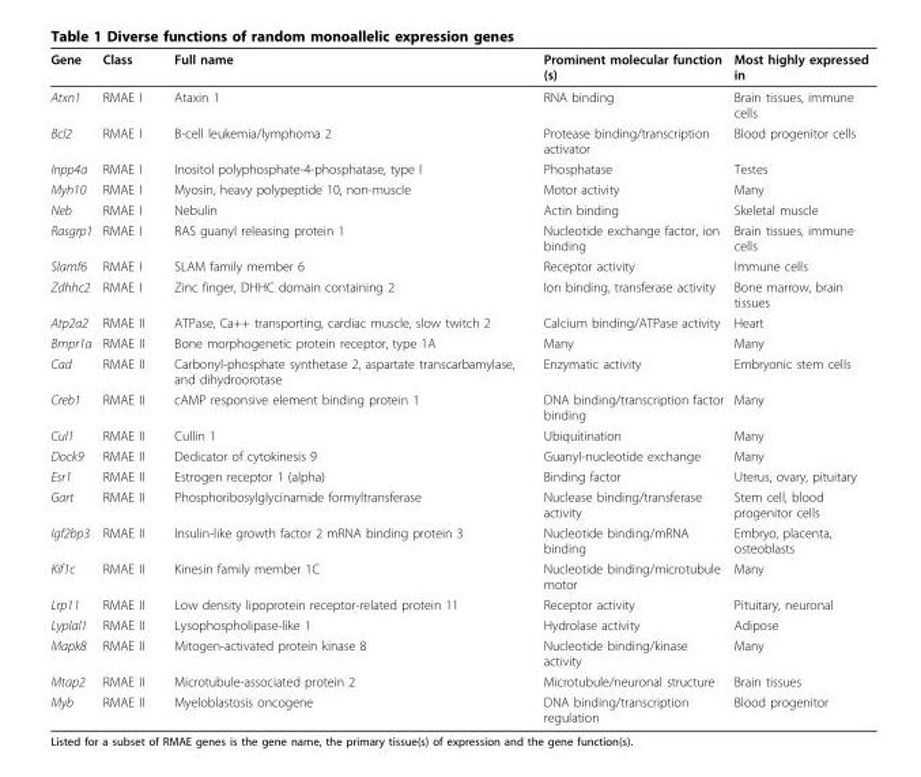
<table><thead><tr><td>Gene</td><td>Class</td><td>Full name</td><td>Prominent molecular function (s)</td><td>Most highly expressed in</td></tr></thead><tbody><tr><td>Atxn1</td><td>RMAE I</td><td>Ataxin 1</td><td>RNA binding</td><td>Brain tissues, immune cells</td></tr><tr><td>Bcl2</td><td>RMAE I</td><td>B-cell leukemia/lymphoma 2</td><td>Protease binding/transcription activator</td><td>Blood progenitor cells</td></tr><tr><td>Inpp4a</td><td>RMAE I</td><td>Inositol polyphosphate-4-phosphatase, type I</td><td>Phosphatase</td><td>Testes</td></tr><tr><td>Myh10</td><td>RMAE I</td><td>Myosin, heavy polypeptide 10, non-muscle</td><td>Motor activity</td><td>Many</td></tr><tr><td>Neb</td><td>RMAE I</td><td>Nebulin</td><td>Actin binding</td><td>Skeletal muscle</td></tr><tr><td>Rasgrp1</td><td>RMAE I</td><td>RAS guanyl releasing protein 1</td><td>Nucleotide exchange factor, ion binding</td><td>Brain tissues, immune cells</td></tr><tr><td>Slamf6</td><td>RMAE I</td><td>SLAM family member 6</td><td>Receptor activity</td><td>Immune cells</td></tr><tr><td>Zdhhc2</td><td>RMAE I</td><td>Zinc finger, DHHC domain containing 2</td><td>Ion binding, transferase activity</td><td>Bone marrow, brain tissues</td></tr><tr><td>Atp2a2</td><td>RMAE II</td><td>ATPase, Ca++ transporting, cardiac muscle, slow twitch 2</td><td>Calcium binding/ATPase activity</td><td>Heart</td></tr><tr><td>Bmpr1a</td><td>RMAE II</td><td>Bone morphogenetic protein receptor, type 1A</td><td>Many</td><td>Many</td></tr><tr><td>Cad</td><td>RMAE II</td><td>Carbonyl-phosphate synthetase 2, aspartate transcarbamylase, and dihydroorotase</td><td>Enzymatic activity</td><td>Embryonic stem cells</td></tr><tr><td>Creb1</td><td>RMAE II</td><td>cAMP responsive element binding protein 1</td><td>DNA binding/transcription factor binding</td><td>Many</td></tr><tr><td>Cul1</td><td>RMAE II</td><td>Cullin 1</td><td>Ubiquitination</td><td>Many</td></tr><tr><td>Dock9</td><td>RMAE II</td><td>Dedicator of cytokinesis 9</td><td>Guanyl-nucleotide exchange</td><td>Many</td></tr><tr><td>Esr1</td><td>RMAE II</td><td>Estrogen receptor 1 (alpha)</td><td>Binding factor</td><td>Uterus, ovary, pituitary</td></tr><tr><td>Gart</td><td>RMAE II</td><td>Phosphoribosylglycinamide formyltransferase</td><td>Nuclease binding/transferase activity</td><td>Stem cell, blood progenitor cells</td></tr><tr><td>Igf2bp3</td><td>RMAE II</td><td>Insulin-like growth factor 2 mRNA binding protein 3</td><td>Nucleotide binding/mRNA binding</td><td>Embryo, placenta, osteoblasts</td></tr><tr><td>Kif1c</td><td>RMAE II</td><td>Kinesin family member 1C</td><td>Nucleotide binding/microtubule motor</td><td>Many</td></tr><tr><td>Lrp11</td><td>RMAE II</td><td>Low density lipoprotein receptor-related protein 11</td><td>Receptor activity</td><td>Pituitary, neuronal</td></tr><tr><td>Lyplal1</td><td>RMAE II</td><td>Lysophospholipase-like 1</td><td>Hydrolase activity</td><td>Adipose</td></tr><tr><td>Mapk8</td><td>RMAE II</td><td>Mitogen-activated protein kinase 8</td><td>Nucleotide binding/kinase activity</td><td>Many</td></tr><tr><td>Mtap2</td><td>RMAE II</td><td>Microtubule-associated protein 2</td><td>Microtubule/neuronal structure</td><td>Brain tissues</td></tr><tr><td>Myb</td><td>RMAE II</td><td>Myeloblastosis oncogene</td><td>DNA binding/transcription regulation</td><td>Blood progenitor</td></tr></tbody></table>